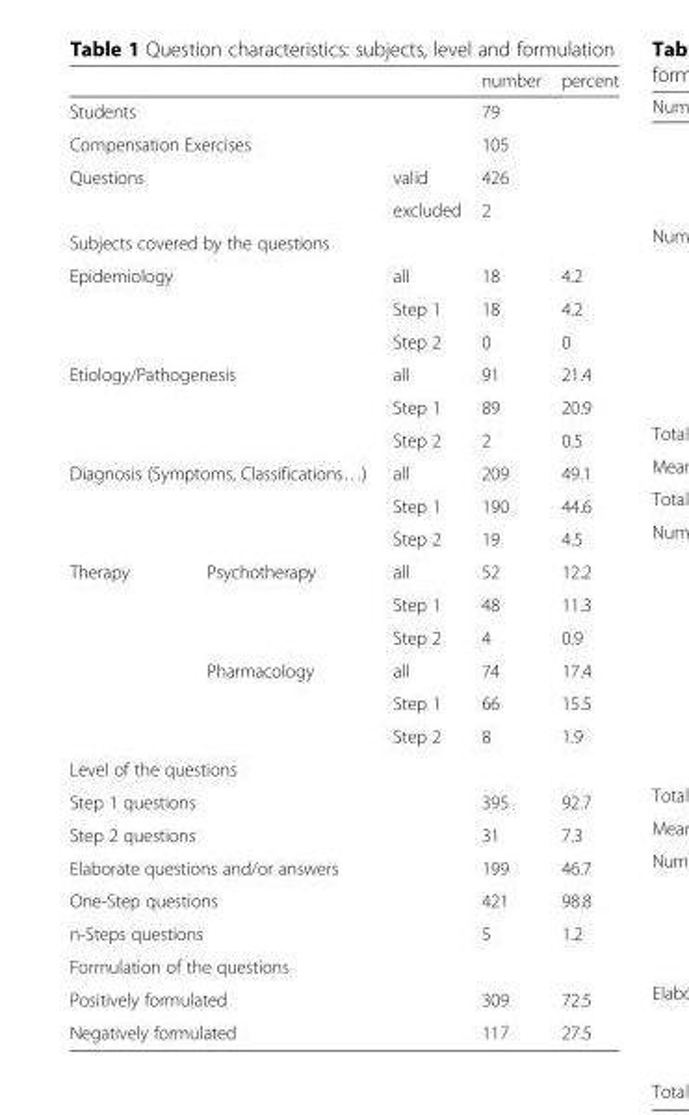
<table><thead><tr><td></td><td></td><td></td><td>number</td><td>percent</td></tr></thead><tbody><tr><td colspan="2">Students</td><td></td><td>79</td><td></td></tr><tr><td colspan="2">Compensation Exercises</td><td></td><td>105</td><td></td></tr><tr><td rowspan="2" colspan="2">Questions</td><td>valid</td><td>426</td><td></td></tr><tr><td>excluded</td><td>2</td><td></td></tr><tr><td colspan="5">Subjects covered by the questions</td></tr><tr><td rowspan="3" colspan="2">Epidemiology</td><td>all</td><td>18</td><td>4.2</td></tr><tr><td>Step 1</td><td>18</td><td>4.2</td></tr><tr><td>Step 2</td><td>0</td><td>0</td></tr><tr><td rowspan="3" colspan="2">Etiology/Pathogenesis</td><td>all</td><td>91</td><td>21.4</td></tr><tr><td>Step 1</td><td>89</td><td>20.9</td></tr><tr><td>Step 2</td><td>2</td><td>0.5</td></tr><tr><td rowspan="3" colspan="2">Diagnosis (Symptoms, Classifications…)</td><td>all</td><td>209</td><td>49.1</td></tr><tr><td>Step 1</td><td>190</td><td>44.6</td></tr><tr><td>Step 2</td><td>19</td><td>4.5</td></tr><tr><td rowspan="6">Therapy</td><td>Psychotherapy</td><td>all</td><td>52</td><td>12.2</td></tr><tr><td></td><td>Step 1</td><td>48</td><td>11.3</td></tr><tr><td></td><td>Step 2</td><td>4</td><td>0.9</td></tr><tr><td>Pharmacology</td><td>all</td><td>74</td><td>17.4</td></tr><tr><td></td><td>Step 1</td><td>66</td><td>15.5</td></tr><tr><td></td><td>Step 2</td><td>8</td><td>1.9</td></tr><tr><td colspan="5">Level of the questions</td></tr><tr><td colspan="2">Step 1 questions</td><td></td><td>395</td><td>92.7</td></tr><tr><td colspan="2">Step 2 questions</td><td></td><td>31</td><td>7.3</td></tr><tr><td colspan="2">Elaborate questions and/or answers</td><td></td><td>199</td><td>46.7</td></tr><tr><td colspan="2">One-Step questions</td><td></td><td>421</td><td>98.8</td></tr><tr><td colspan="2">n-Steps questions</td><td></td><td>5</td><td>1.2</td></tr><tr><td colspan="5">Formulation of the questions</td></tr><tr><td colspan="2">Positively formulated</td><td></td><td>309</td><td>72.5</td></tr><tr><td colspan="2">Negatively formulated</td><td></td><td>117</td><td>27.5</td></tr></tbody></table>